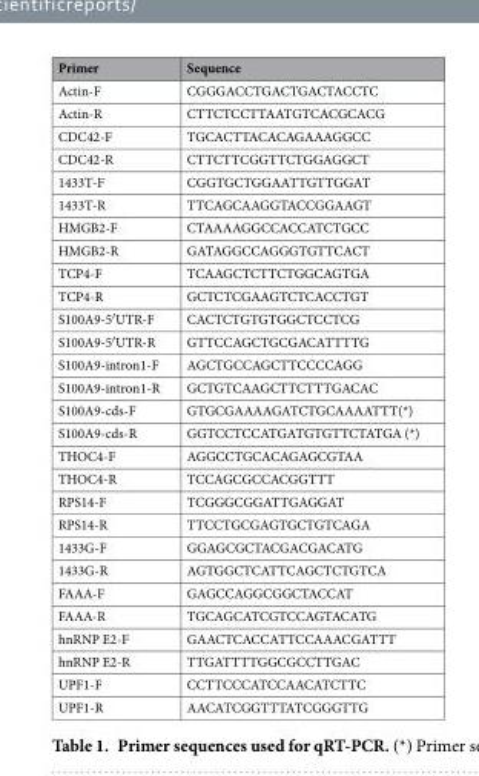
<table><thead><tr><td>Primer</td><td>Sequence</td></tr></thead><tbody><tr><td>Actin-F</td><td>CGGGACCTGACTGACTACCTC</td></tr><tr><td>Actin-R</td><td>CTTCTCCTTAATGTCACGCACG</td></tr><tr><td>CDC42-F</td><td>TGCACTTACACAGAAAGGCC</td></tr><tr><td>CDC42-R</td><td>CTTCTTCGGTTCTGGAGGCT</td></tr><tr><td>1433T-F</td><td>CGGTGCTGGAATTGTTGGAT</td></tr><tr><td>1433T-R</td><td>TTCAGCAAGGTACCGGAAGT</td></tr><tr><td>HMGB2-F</td><td>CTAAAAGGCCACCATCTGCC</td></tr><tr><td>HMGB2-R</td><td>GATAGGCCAGGGTGTTCACT</td></tr><tr><td>TCP4-F</td><td>TCAAGCTCTTCTGGCAGTGA</td></tr><tr><td>TCP4-R</td><td>GCTCTCGAAGTCTCACCTGT</td></tr><tr><td>S100A9-5′ UTR-F</td><td>CACTCTGTGTGGCTCCTCG</td></tr><tr><td>S100A9-5′ UTR-R</td><td>GTTCCAGCTGCGACATTTTG</td></tr><tr><td>S100A9-intron1-F</td><td>AGCTGCCAGCTTCCCCAGG</td></tr><tr><td>S100A9-intron1-R</td><td>GCTGTCAAGCTTCTTTGACAC</td></tr><tr><td>S100A9-cds-F</td><td>GTGCGAAAAGATCTGCAAAATTT(*)</td></tr><tr><td>S100A9-cds-R</td><td>GGTCCTCCATGATGTGTTCTATGA (*)</td></tr><tr><td>THOC4-F</td><td>AGGCCTGCACAGAGCGTAA</td></tr><tr><td>THOC4-R</td><td>TCCAGCGCCACGGTTT</td></tr><tr><td>RPS14-F</td><td>TCGGGCGGATTGAGGAT</td></tr><tr><td>RPS14-R</td><td>TTCCTGCGAGTGCTGTCAGA</td></tr><tr><td>1433G-F</td><td>GGAGCGCTACGACGACATG</td></tr><tr><td>1433G-R</td><td>AGTGGCTCATTCAGCTCTGTCA</td></tr><tr><td>FAAA-F</td><td>GAGCCAGGCGGCTACCAT</td></tr><tr><td>FAAA-R</td><td>TGCAGCATCGTCCAGTACATG</td></tr><tr><td>hnRNP E2-F</td><td>GAACTCACCATTCCAAACGATTT</td></tr><tr><td>hnRNP E2-R</td><td>TTGATTTTGGCGCCTTGAC</td></tr><tr><td>UPF1-F</td><td>CCTTCCCATCCAACATCTTC</td></tr><tr><td>UPF1-R</td><td>AACATCGGTTTATCGGGTTG</td></tr></tbody></table>